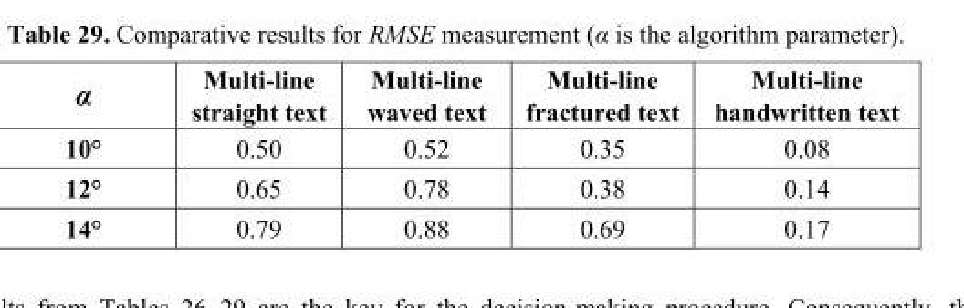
<table><thead><tr><td>α</td><td>Multi-line straight text</td><td>Multi-line waved text</td><td>Multi-line fractured text</td><td>Multi-line handwritten text</td></tr></thead><tbody><tr><td>10°</td><td>0.50</td><td>0.52</td><td>0.35</td><td>0.08</td></tr><tr><td>12°</td><td>0.65</td><td>0.78</td><td>0.38</td><td>0.14</td></tr><tr><td>14°</td><td>0.79</td><td>0.88</td><td>0.69</td><td>0.17</td></tr></tbody></table>